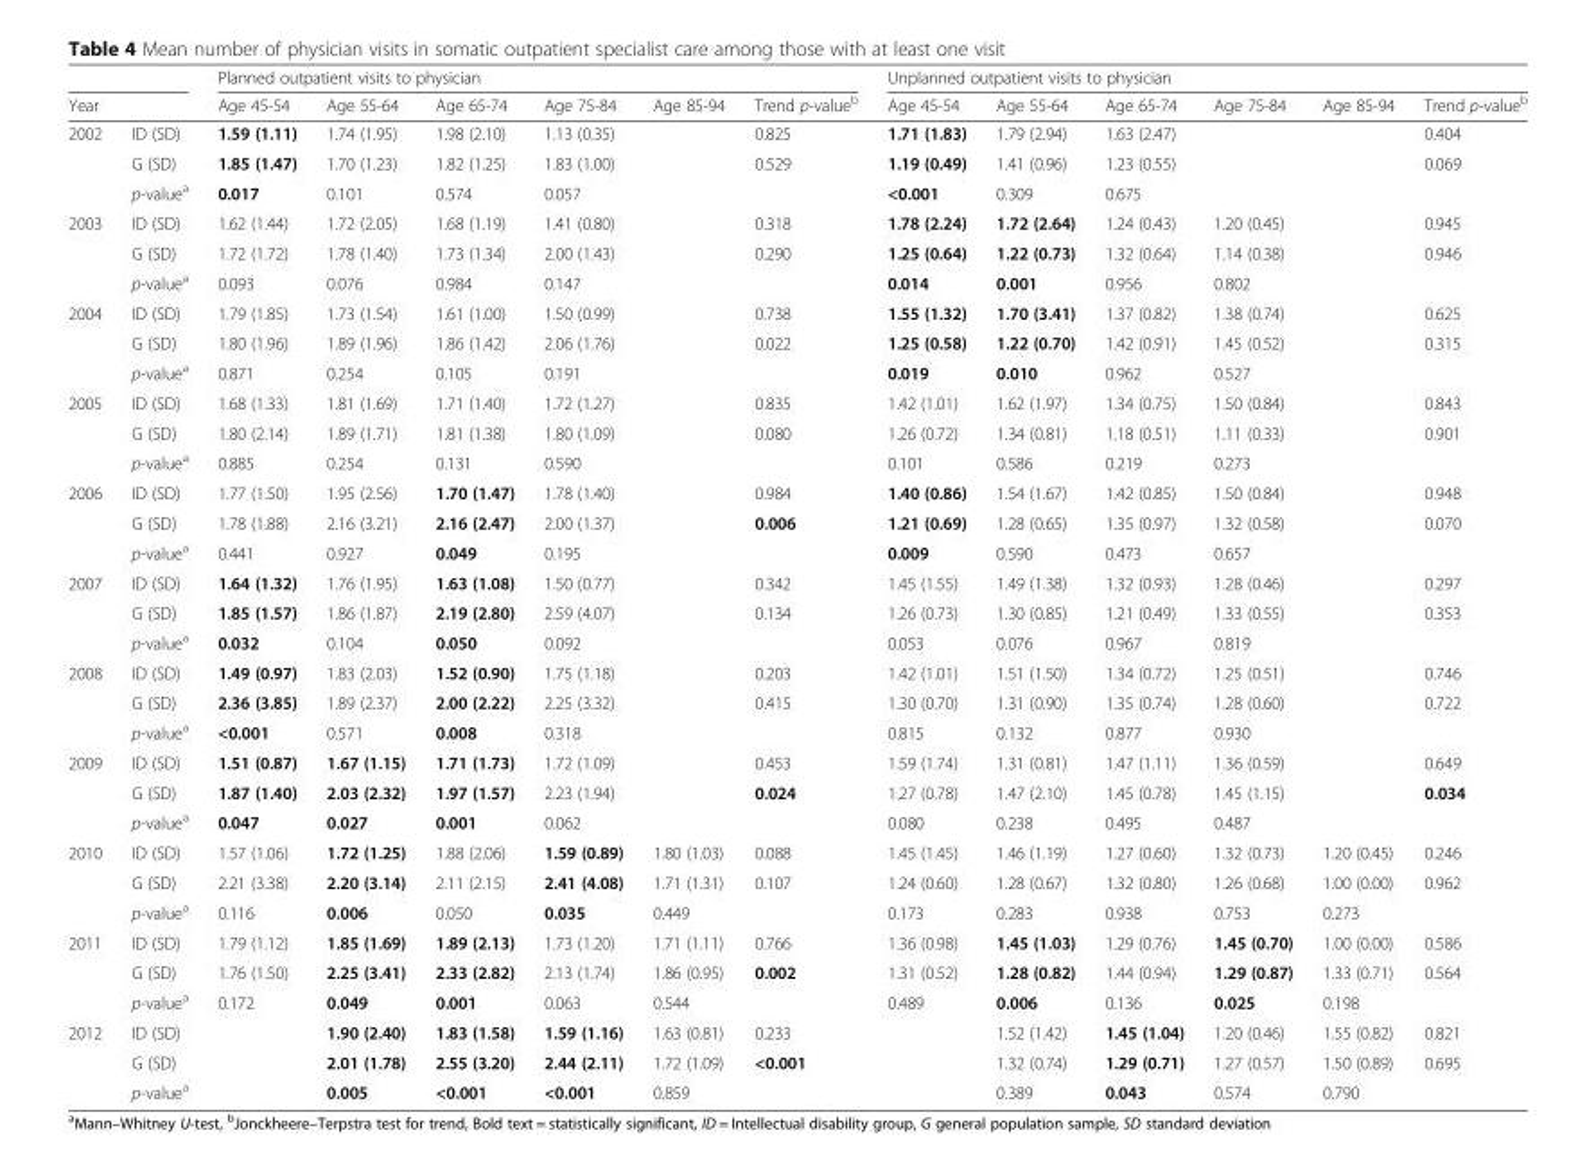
<table><thead><tr><td rowspan="2">Year</td><td rowspan="2"></td><td colspan="6">Planned outpatient visits to physician</td><td colspan="6">Unplanned outpatient visits to physician</td></tr><tr><td>Age 45-54</td><td>Age 55-64</td><td>Age 65-74</td><td>Age 75-84</td><td>Age 85-94</td><td>Trend p-value<sup>b</sup></td><td>Age 45-54</td><td>Age 55-64</td><td>Age 65-74</td><td>Age 75-84</td><td>Age 85-94</td><td>Trend p-value<sup>b</sup></td></tr></thead><tbody><tr><td rowspan="3">2002</td><td>ID (SD)</td><td>1.59 (1.11)</td><td>1.74 (1.95)</td><td>1.98 (2.10)</td><td>1.13 (0.35)</td><td></td><td>0.825</td><td>1.71 (1.83)</td><td>1.79 (2.94)</td><td>1.63 (2.47)</td><td></td><td></td><td>0.404</td></tr><tr><td>G (SD)</td><td>1.85 (1.47)</td><td>1.70 (1.23)</td><td>1.82 (1.25)</td><td>1.83 (1.00)</td><td></td><td>0.529</td><td>1.19 (0.49)</td><td>1.41 (0.96)</td><td>1.23 (0.55)</td><td></td><td></td><td>0.069</td></tr><tr><td>p-value<sup>a</sup></td><td>0.017</td><td>0.101</td><td>0.574</td><td>0.057</td><td></td><td></td><td>&lt;0.001</td><td>0.309</td><td>0.675</td><td></td><td></td><td></td></tr><tr><td rowspan="3">2003</td><td>ID (SD)</td><td>1.62 (1.44)</td><td>1.72 (2.05)</td><td>1.68 (1.19)</td><td>1.41 (0.80)</td><td></td><td>0.318</td><td>1.78 (2.24)</td><td>1.72 (2.64)</td><td>1.24 (0.43)</td><td>1.20 (0.45)</td><td></td><td>0.945</td></tr><tr><td>G (SD)</td><td>1.72 (1.72)</td><td>1.78 (1.40)</td><td>1.73 (1.34)</td><td>2.00 (1.43)</td><td></td><td>0.290</td><td>1.25 (0.64)</td><td>1.22 (0.73)</td><td>1.32 (0.64)</td><td>1.14 (0.38)</td><td></td><td>0.946</td></tr><tr><td>p-value<sup>a</sup></td><td>0.093</td><td>0.076</td><td>0.984</td><td>0.147</td><td></td><td></td><td>0.014</td><td>0.001</td><td>0.956</td><td>0.802</td><td></td><td></td></tr><tr><td rowspan="3">2004</td><td>ID (SD)</td><td>1.79 (1.85)</td><td>1.73 (1.54)</td><td>1.61 (1.00)</td><td>1.50 (0.99)</td><td></td><td>0.738</td><td>1.55 (1.32)</td><td>1.70 (3.41)</td><td>1.37 (0.82)</td><td>1.38 (0.74)</td><td></td><td>0.625</td></tr><tr><td>G (SD)</td><td>1.80 (1.96)</td><td>1.89 (1.96)</td><td>1.86 (1.42)</td><td>2.06 (1.76)</td><td></td><td>0.022</td><td>1.25 (0.58)</td><td>1.22 (0.70)</td><td>1.42 (0.91)</td><td>1.45 (0.52)</td><td></td><td>0.315</td></tr><tr><td>p-value<sup>a</sup></td><td>0.871</td><td>0.254</td><td>0.105</td><td>0.191</td><td></td><td></td><td>0.019</td><td>0.010</td><td>0.962</td><td>0.527</td><td></td><td></td></tr><tr><td rowspan="3">2005</td><td>ID (SD)</td><td>1.68 (1.33)</td><td>1.81 (1.69)</td><td>1.71 (1.40)</td><td>1.72 (1.27)</td><td></td><td>0.835</td><td>1.42 (1.01)</td><td>1.62 (1.97)</td><td>1.34 (0.75)</td><td>1.50 (0.84)</td><td></td><td>0.843</td></tr><tr><td>G (SD)</td><td>1.80 (2.14)</td><td>1.89 (1.71)</td><td>1.81 (1.38)</td><td>1.80 (1.09)</td><td></td><td>0.080</td><td>1.26 (0.72)</td><td>1.34 (0.81)</td><td>1.18 (0.51)</td><td>1.11 (0.33)</td><td></td><td>0.901</td></tr><tr><td>p-value<sup>a</sup></td><td>0.885</td><td>0.254</td><td>0.131</td><td>0.590</td><td></td><td></td><td>0.101</td><td>0.586</td><td>0.219</td><td>0.273</td><td></td><td></td></tr><tr><td rowspan="3">2006</td><td>ID (SD)</td><td>1.77 (1.50)</td><td>1.95 (2.56)</td><td>1.70 (1.47)</td><td>1.78 (1.40)</td><td></td><td>0.984</td><td>1.40 (0.86)</td><td>1.54 (1.67)</td><td>1.42 (0.85)</td><td>1.50 (0.84)</td><td></td><td>0.948</td></tr><tr><td>G (SD)</td><td>1.78 (1.88)</td><td>2.16 (3.21)</td><td>2.16 (2.47)</td><td>2.00 (1.37)</td><td></td><td>0.006</td><td>1.21 (0.69)</td><td>1.28 (0.65)</td><td>1.35 (0.97)</td><td>1.32 (0.58)</td><td></td><td>0.070</td></tr><tr><td>p-value<sup>a</sup></td><td>0.441</td><td>0.927</td><td>0.049</td><td>0.195</td><td></td><td></td><td>0.009</td><td>0.590</td><td>0.473</td><td>0.657</td><td></td><td></td></tr><tr><td rowspan="3">2007</td><td>ID (SD)</td><td>1.64 (1.32)</td><td>1.76 (1.95)</td><td>1.63 (1.08)</td><td>1.50 (0.77)</td><td></td><td>0.342</td><td>1.45 (1.55)</td><td>1.49 (1.38)</td><td>1.32 (0.93)</td><td>1.28 (0.46)</td><td></td><td>0.297</td></tr><tr><td>G (SD)</td><td>1.85 (1.57)</td><td>1.86 (1.87)</td><td>2.19 (2.80)</td><td>2.59 (4.07)</td><td></td><td>0.134</td><td>1.26 (0.73)</td><td>1.30 (0.85)</td><td>1.21 (0.49)</td><td>1.33 (0.55)</td><td></td><td>0.353</td></tr><tr><td>p-value<sup>a</sup></td><td>0.032</td><td>0.104</td><td>0.050</td><td>0.092</td><td></td><td></td><td>0.053</td><td>0.076</td><td>0.967</td><td>0.819</td><td></td><td></td></tr><tr><td rowspan="3">2008</td><td>ID (SD)</td><td>1.49 (0.97)</td><td>1.83 (2.03)</td><td>1.52 (0.90)</td><td>1.75 (1.18)</td><td></td><td>0.203</td><td>1.42 (1.01)</td><td>1.51 (1.50)</td><td>1.34 (0.72)</td><td>1.25 (0.51)</td><td></td><td>0.746</td></tr><tr><td>G (SD)</td><td>2.36 (3.85)</td><td>1.89 (2.37)</td><td>2.00 (2.22)</td><td>2.25 (3.32)</td><td></td><td>0.415</td><td>1.30 (0.70)</td><td>1.31 (0.90)</td><td>1.35 (0.74)</td><td>1.28 (0.60)</td><td></td><td>0.722</td></tr><tr><td>p-value<sup>a</sup></td><td>&lt;0.001</td><td>0.571</td><td>0.008</td><td>0.318</td><td></td><td></td><td>0.815</td><td>0.132</td><td>0.877</td><td>0.930</td><td></td><td></td></tr><tr><td rowspan="3">2009</td><td>ID (SD)</td><td>1.51 (0.87)</td><td>1.67 (1.15)</td><td>1.71 (1.73)</td><td>1.72 (1.09)</td><td></td><td>0.453</td><td>1.59 (1.74)</td><td>1.31 (0.81)</td><td>1.47 (1.11)</td><td>1.36 (0.59)</td><td></td><td>0.649</td></tr><tr><td>G (SD)</td><td>1.87 (1.40)</td><td>2.03 (2.32)</td><td>1.97 (1.57)</td><td>2.23 (1.94)</td><td></td><td>0.024</td><td>1.27 (0.78)</td><td>1.47 (2.10)</td><td>1.45 (0.78)</td><td>1.45 (1.15)</td><td></td><td>0.034</td></tr><tr><td>p-value<sup>a</sup></td><td>0.047</td><td>0.027</td><td>0.001</td><td>0.062</td><td></td><td></td><td>0.080</td><td>0.238</td><td>0.495</td><td>0.487</td><td></td><td></td></tr><tr><td rowspan="3">2010</td><td>ID (SD)</td><td>1.57 (1.06)</td><td>1.72 (1.25)</td><td>1.88 (2.06)</td><td>1.59 (0.89)</td><td>1.80 (1.03)</td><td>0.088</td><td>1.45 (1.45)</td><td>1.46 (1.19)</td><td>1.27 (0.60)</td><td>1.32 (0.73)</td><td>1.20 (0.45)</td><td>0.246</td></tr><tr><td>G (SD)</td><td>2.21 (3.38)</td><td>2.20 (3.14)</td><td>2.11 (2.15)</td><td>2.41 (4.08)</td><td>1.71 (1.31)</td><td>0.107</td><td>1.24 (0.60)</td><td>1.28 (0.67)</td><td>1.32 (0.80)</td><td>1.26 (0.68)</td><td>1.00 (0.00)</td><td>0.962</td></tr><tr><td>p-value<sup>a</sup></td><td>0.116</td><td>0.006</td><td>0.050</td><td>0.035</td><td>0.449</td><td></td><td>0.173</td><td>0.283</td><td>0.938</td><td>0.753</td><td>0.273</td><td></td></tr><tr><td rowspan="3">2011</td><td>ID (SD)</td><td>1.79 (1.12)</td><td>1.85 (1.69)</td><td>1.89 (2.13)</td><td>1.73 (1.20)</td><td>1.71 (1.11)</td><td>0.766</td><td>1.36 (0.98)</td><td>1.45 (1.03)</td><td>1.29 (0.76)</td><td>1.45 (0.70)</td><td>1.00 (0.00)</td><td>0.586</td></tr><tr><td>G (SD)</td><td>1.76 (1.50)</td><td>2.25 (3.41)</td><td>2.33 (2.82)</td><td>2.13 (1.74)</td><td>1.86 (0.95)</td><td>0.002</td><td>1.31 (0.52)</td><td>1.28 (0.82)</td><td>1.44 (0.94)</td><td>1.29 (0.87)</td><td>1.33 (0.71)</td><td>0.564</td></tr><tr><td>p-value<sup>a</sup></td><td>0.172</td><td>0.049</td><td>0.001</td><td>0.063</td><td>0.544</td><td></td><td>0.489</td><td>0.006</td><td>0.136</td><td>0.025</td><td>0.198</td><td></td></tr><tr><td rowspan="3">2012</td><td>ID (SD)</td><td></td><td>1.90 (2.40)</td><td>1.83 (1.58)</td><td>1.59 (1.16)</td><td>1.63 (0.81)</td><td>0.233</td><td></td><td>1.52 (1.42)</td><td>1.45 (1.04)</td><td>1.20 (0.46)</td><td>1.55 (0.82)</td><td>0.821</td></tr><tr><td>G (SD)</td><td></td><td>2.01 (1.78)</td><td>2.55 (3.20)</td><td>2.44 (2.11)</td><td>1.72 (1.09)</td><td>&lt;0.001</td><td></td><td>1.32 (0.74)</td><td>1.29 (0.71)</td><td>1.27 (0.57)</td><td>1.50 (0.89)</td><td>0.695</td></tr><tr><td>p-value<sup>a</sup></td><td></td><td>0.005</td><td>&lt;0.001</td><td>&lt;0.001</td><td>0.859</td><td></td><td></td><td>0.389</td><td>0.043</td><td>0.574</td><td>0.790</td><td></td></tr></tbody></table>